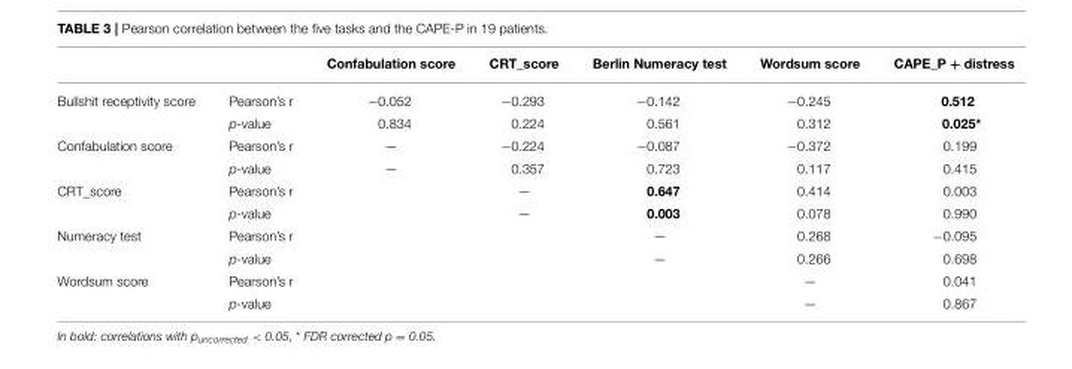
<table><thead><tr><td></td><td></td><td>Confabulation score</td><td>CRT_score</td><td>Berlin Numeracy test</td><td>Wordsum score</td><td>CAPE_P + distress</td></tr></thead><tbody><tr><td rowspan="2">Bullshit receptivity score</td><td>Pearson’s r</td><td>−0.052</td><td>−0.293</td><td>−0.142</td><td>−0.245</td><td>0.512</td></tr><tr><td>p-value</td><td>0.834</td><td>0.224</td><td>0.561</td><td>0.312</td><td>0.025*</td></tr><tr><td rowspan="2">Confabulation score</td><td>Pearson’s r</td><td>—</td><td>−0.224</td><td>−0.087</td><td>−0.372</td><td>0.199</td></tr><tr><td>p-value</td><td>—</td><td>0.357</td><td>0.723</td><td>0.117</td><td>0.415</td></tr><tr><td rowspan="2">CRT_score</td><td>Pearson’s r</td><td></td><td>—</td><td>0.647</td><td>0.414</td><td>0.003</td></tr><tr><td>p-value</td><td></td><td>—</td><td>0.003</td><td>0.078</td><td>0.990</td></tr><tr><td rowspan="2">Numeracy test</td><td>Pearson’s r</td><td></td><td></td><td>—</td><td>0.268</td><td>−0.095</td></tr><tr><td>p-value</td><td></td><td></td><td>—</td><td>0.266</td><td>0.698</td></tr><tr><td rowspan="2">Wordsum score</td><td>Pearson’s r</td><td></td><td></td><td></td><td>—</td><td>0.041</td></tr><tr><td>p-value</td><td></td><td></td><td></td><td>—</td><td>0.867</td></tr></tbody></table>